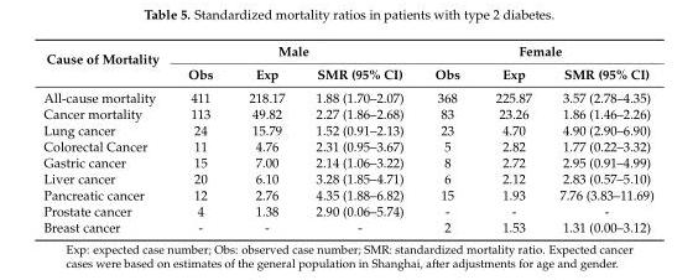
<table><thead><tr><td rowspan="2">Cause of Mortality</td><td colspan="3">Male</td><td colspan="3">Female</td></tr><tr><td>Obs</td><td>Exp</td><td>SMR (95% CI)</td><td>Obs</td><td>Exp</td><td>SMR (95% CI)</td></tr></thead><tbody><tr><td>All-cause mortality</td><td>411</td><td>218.17</td><td>1.88 (1.70–2.07)</td><td>368</td><td>225.87</td><td>3.57 (2.78–4.35)</td></tr><tr><td>Cancer mortality</td><td>113</td><td>49.82</td><td>2.27 (1.86–2.68)</td><td>83</td><td>23.26</td><td>1.86 (1.46–2.26)</td></tr><tr><td>Lung cancer</td><td>24</td><td>15.79</td><td>1.52 (0.91–2.13)</td><td>23</td><td>4.70</td><td>4.90 (2.90–6.90)</td></tr><tr><td>Colorectal Cancer</td><td>11</td><td>4.76</td><td>2.31 (0.95–3.67)</td><td>5</td><td>2.82</td><td>1.77 (0.22–3.32)</td></tr><tr><td>Gastric cancer</td><td>15</td><td>7.00</td><td>2.14 (1.06–3.22)</td><td>8</td><td>2.72</td><td>2.95 (0.91–4.99)</td></tr><tr><td>Liver cancer</td><td>20</td><td>6.10</td><td>3.28 (1.85–4.71)</td><td>6</td><td>2.12</td><td>2.83 (0.57–5.10)</td></tr><tr><td>Pancreatic cancer</td><td>12</td><td>2.76</td><td>4.35 (1.88–6.82)</td><td>15</td><td>1.93</td><td>7.76 (3.83–11.69)</td></tr><tr><td>Prostate cancer</td><td>4</td><td>1.38</td><td>2.90 (0.06–5.74)</td><td>-</td><td>-</td><td>-</td></tr><tr><td>Breast cancer</td><td>-</td><td>-</td><td>-</td><td>2</td><td>1.53</td><td>1.31 (0.00–3.12)</td></tr></tbody></table>